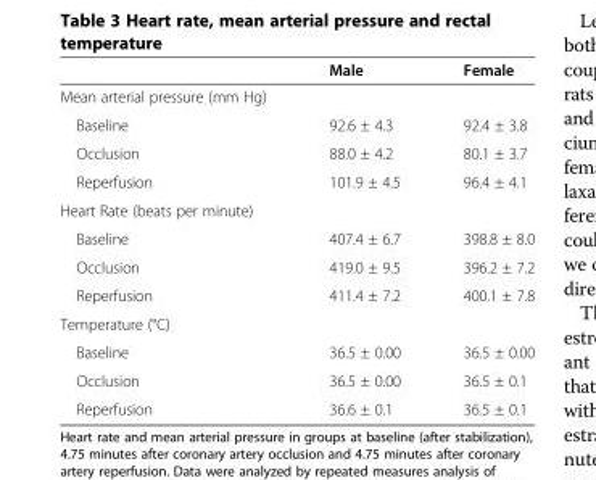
<table><thead><tr><td></td><td>Male</td><td>Female</td></tr></thead><tbody><tr><td colspan="3">Mean arterial pressure (mm Hg)</td></tr><tr><td>Baseline</td><td>92.6 ± 4.3</td><td>92.4 ± 3.8</td></tr><tr><td>Occlusion</td><td>88.0 ± 4.2</td><td>80.1 ± 3.7</td></tr><tr><td>Reperfusion</td><td>101.9 ± 4.5</td><td>96.4 ± 4.1</td></tr><tr><td colspan="3">Heart Rate (beats per minute)</td></tr><tr><td>Baseline</td><td>407.4 ± 6.7</td><td>398.8 ± 8.0</td></tr><tr><td>Occlusion</td><td>419.0 ± 9.5</td><td>396.2 ± 7.2</td></tr><tr><td>Reperfusion</td><td>411.4 ± 7.2</td><td>400.1 ± 7.8</td></tr><tr><td colspan="3">Temperature (°C)</td></tr><tr><td>Baseline</td><td>36.5 ± 0.00</td><td>36.5 ± 0.00</td></tr><tr><td>Occlusion</td><td>36.5 ± 0.00</td><td>36.5 ± 0.1</td></tr><tr><td>Reperfusion</td><td>36.6 ± 0.1</td><td>36.5 ± 0.1</td></tr></tbody></table>